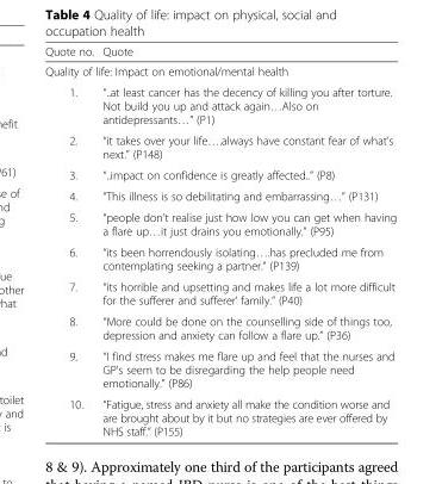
<table><thead><tr><td>Quote no.</td><td>Quote</td></tr></thead><tbody><tr><td colspan="2">Quality of life: Impact on emotional/mental health</td></tr><tr><td>1.</td><td>“..at least cancer has the decency of killing you after torture. Not build you up and attack again…Also on antidepressants…” (P1)</td></tr><tr><td>2.</td><td>“it takes over your life….always have constant fear of what’s next.” (P148)</td></tr><tr><td>3.</td><td>“..impact on confidence is greatly affected..” (P8)</td></tr><tr><td>4.</td><td>“This illness is so debilitating and embarrassing…” (P131)</td></tr><tr><td>5.</td><td>“people don’t realise just how low you can get when having a flare up…it just drains you emotionally.” (P95)</td></tr><tr><td>6.</td><td>“its been horrendously isolating….has precluded me from contemplating seeking a partner.” (P139)</td></tr><tr><td>7.</td><td>“its horrible and upsetting and makes life a lot more difficult for the sufferer and sufferer’ family.” (P40)</td></tr><tr><td>8.</td><td>“More could be done on the counselling side of things too, depression and anxiety can follow a flare up.” (P36)</td></tr><tr><td>9.</td><td>“I find stress makes me flare up and feel that the nurses and GP&#x27;s seem to be disregarding the help people need emotionally.” (P86)</td></tr><tr><td>10.</td><td>“Fatigue, stress and anxiety all make the condition worse and are brought about by it but no strategies are ever offered by NHS staff.” (P155)</td></tr></tbody></table>